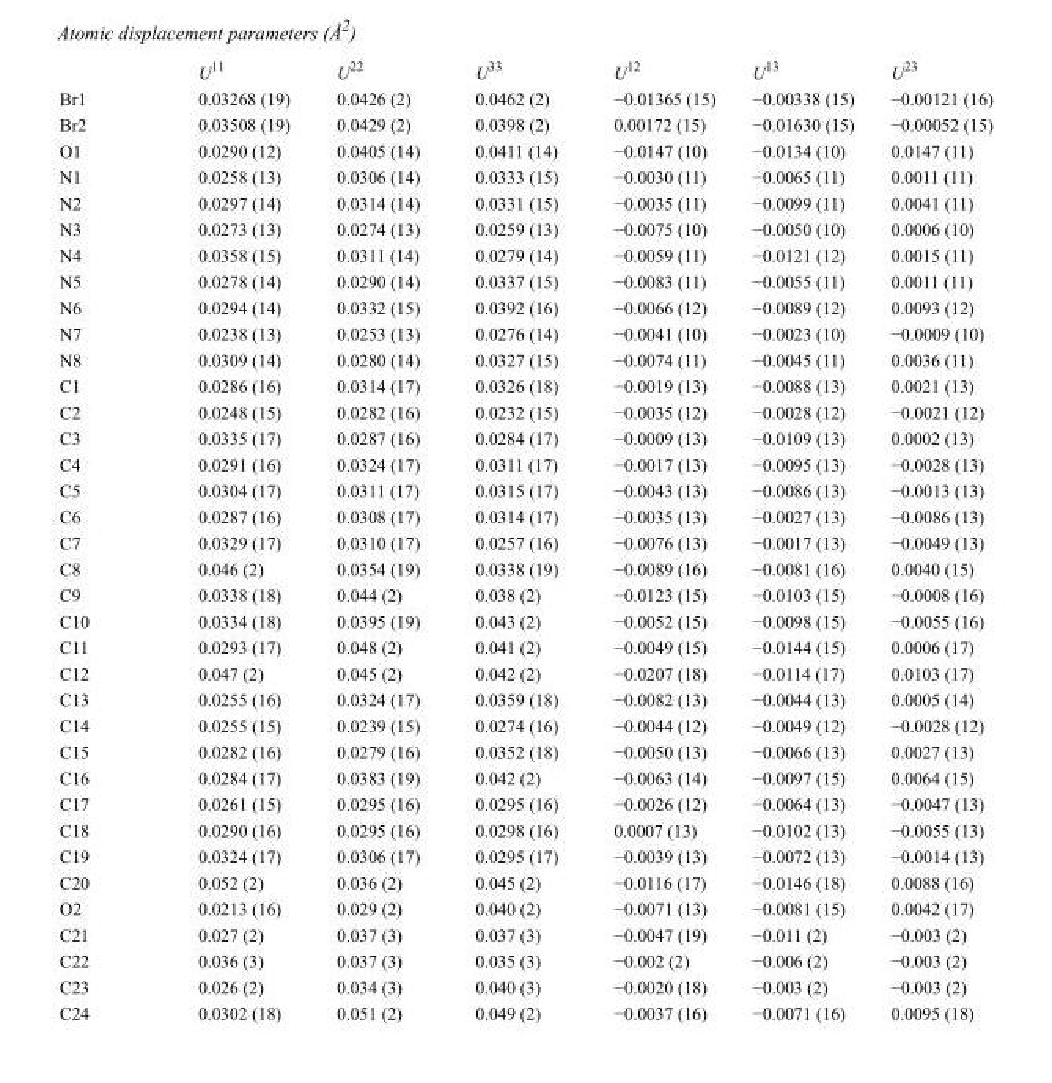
<table><thead><tr><td></td><td>U<sup>11</sup></td><td>U<sup>22</sup></td><td>U<sup>33</sup></td><td>U<sup>12</sup></td><td>U<sup>13</sup></td><td>U<sup>23</sup></td></tr></thead><tbody><tr><td>Br1</td><td>0.03268 (19)</td><td>0.0426 (2)</td><td>0.0462 (2)</td><td>−0.01365 (15)</td><td>−0.00338 (15)</td><td>−0.00121 (16)</td></tr><tr><td>Br2</td><td>0.03508 (19)</td><td>0.0429 (2)</td><td>0.0398 (2)</td><td>0.00172 (15)</td><td>−0.01630 (15)</td><td>−0.00052 (15)</td></tr><tr><td>O1</td><td>0.0290 (12)</td><td>0.0405 (14)</td><td>0.0411 (14)</td><td>−0.0147 (10)</td><td>−0.0134 (10)</td><td>0.0147 (11)</td></tr><tr><td>N1</td><td>0.0258 (13)</td><td>0.0306 (14)</td><td>0.0333 (15)</td><td>−0.0030 (11)</td><td>−0.0065 (11)</td><td>0.0011 (11)</td></tr><tr><td>N2</td><td>0.0297 (14)</td><td>0.0314 (14)</td><td>0.0331 (15)</td><td>−0.0035 (11)</td><td>−0.0099 (11)</td><td>0.0041 (11)</td></tr><tr><td>N3</td><td>0.0273 (13)</td><td>0.0274 (13)</td><td>0.0259 (13)</td><td>−0.0075 (10)</td><td>−0.0050 (10)</td><td>0.0006 (10)</td></tr><tr><td>N4</td><td>0.0358 (15)</td><td>0.0311 (14)</td><td>0.0279 (14)</td><td>−0.0059 (11)</td><td>−0.0121 (12)</td><td>0.0015 (11)</td></tr><tr><td>N5</td><td>0.0278 (14)</td><td>0.0290 (14)</td><td>0.0337 (15)</td><td>−0.0083 (11)</td><td>−0.0055 (11)</td><td>0.0011 (11)</td></tr><tr><td>N6</td><td>0.0294 (14)</td><td>0.0332 (15)</td><td>0.0392 (16)</td><td>−0.0066 (12)</td><td>−0.0089 (12)</td><td>0.0093 (12)</td></tr><tr><td>N7</td><td>0.0238 (13)</td><td>0.0253 (13)</td><td>0.0276 (14)</td><td>−0.0041 (10)</td><td>−0.0023 (10)</td><td>−0.0009 (10)</td></tr><tr><td>N8</td><td>0.0309 (14)</td><td>0.0280 (14)</td><td>0.0327 (15)</td><td>−0.0074 (11)</td><td>−0.0045 (11)</td><td>0.0036 (11)</td></tr><tr><td>C1</td><td>0.0286 (16)</td><td>0.0314 (17)</td><td>0.0326 (18)</td><td>−0.0019 (13)</td><td>−0.0088 (13)</td><td>0.0021 (13)</td></tr><tr><td>C2</td><td>0.0248 (15)</td><td>0.0282 (16)</td><td>0.0232 (15)</td><td>−0.0035 (12)</td><td>−0.0028 (12)</td><td>−0.0021 (12)</td></tr><tr><td>C3</td><td>0.0335 (17)</td><td>0.0287 (16)</td><td>0.0284 (17)</td><td>−0.0009 (13)</td><td>−0.0109 (13)</td><td>0.0002 (13)</td></tr><tr><td>C4</td><td>0.0291 (16)</td><td>0.0324 (17)</td><td>0.0311 (17)</td><td>−0.0017 (13)</td><td>−0.0095 (13)</td><td>−0.0028 (13)</td></tr><tr><td>C5</td><td>0.0304 (17)</td><td>0.0311 (17)</td><td>0.0315 (17)</td><td>−0.0043 (13)</td><td>−0.0086 (13)</td><td>−0.0013 (13)</td></tr><tr><td>C6</td><td>0.0287 (16)</td><td>0.0308 (17)</td><td>0.0314 (17)</td><td>−0.0035 (13)</td><td>−0.0027 (13)</td><td>−0.0086 (13)</td></tr><tr><td>C7</td><td>0.0329 (17)</td><td>0.0310 (17)</td><td>0.0257 (16)</td><td>−0.0076 (13)</td><td>−0.0017 (13)</td><td>−0.0049 (13)</td></tr><tr><td>C8</td><td>0.046 (2)</td><td>0.0354 (19)</td><td>0.0338 (19)</td><td>−0.0089 (16)</td><td>−0.0081 (16)</td><td>0.0040 (15)</td></tr><tr><td>C9</td><td>0.0338 (18)</td><td>0.044 (2)</td><td>0.038 (2)</td><td>−0.0123 (15)</td><td>−0.0103 (15)</td><td>−0.0008 (16)</td></tr><tr><td>C10</td><td>0.0334 (18)</td><td>0.0395 (19)</td><td>0.043 (2)</td><td>−0.0052 (15)</td><td>−0.0098 (15)</td><td>−0.0055 (16)</td></tr><tr><td>C11</td><td>0.0293 (17)</td><td>0.048 (2)</td><td>0.041 (2)</td><td>−0.0049 (15)</td><td>−0.0144 (15)</td><td>0.0006 (17)</td></tr><tr><td>C12</td><td>0.047 (2)</td><td>0.045 (2)</td><td>0.042 (2)</td><td>−0.0207 (18)</td><td>−0.0114 (17)</td><td>0.0103 (17)</td></tr><tr><td>C13</td><td>0.0255 (16)</td><td>0.0324 (17)</td><td>0.0359 (18)</td><td>−0.0082 (13)</td><td>−0.0044 (13)</td><td>0.0005 (14)</td></tr><tr><td>C14</td><td>0.0255 (15)</td><td>0.0239 (15)</td><td>0.0274 (16)</td><td>−0.0044 (12)</td><td>−0.0049 (12)</td><td>−0.0028 (12)</td></tr><tr><td>C15</td><td>0.0282 (16)</td><td>0.0279 (16)</td><td>0.0352 (18)</td><td>−0.0050 (13)</td><td>−0.0066 (13)</td><td>0.0027 (13)</td></tr><tr><td>C16</td><td>0.0284 (17)</td><td>0.0383 (19)</td><td>0.042 (2)</td><td>−0.0063 (14)</td><td>−0.0097 (15)</td><td>0.0064 (15)</td></tr><tr><td>C17</td><td>0.0261 (15)</td><td>0.0295 (16)</td><td>0.0295 (16)</td><td>−0.0026 (12)</td><td>−0.0064 (13)</td><td>−0.0047 (13)</td></tr><tr><td>C18</td><td>0.0290 (16)</td><td>0.0295 (16)</td><td>0.0298 (16)</td><td>0.0007 (13)</td><td>−0.0102 (13)</td><td>−0.0055 (13)</td></tr><tr><td>C19</td><td>0.0324 (17)</td><td>0.0306 (17)</td><td>0.0295 (17)</td><td>−0.0039 (13)</td><td>−0.0072 (13)</td><td>−0.0014 (13)</td></tr><tr><td>C20</td><td>0.052 (2)</td><td>0.036 (2)</td><td>0.045 (2)</td><td>−0.0116 (17)</td><td>−0.0146 (18)</td><td>0.0088 (16)</td></tr><tr><td>O2</td><td>0.0213 (16)</td><td>0.029 (2)</td><td>0.040 (2)</td><td>−0.0071 (13)</td><td>−0.0081 (15)</td><td>0.0042 (17)</td></tr><tr><td>C21</td><td>0.027 (2)</td><td>0.037 (3)</td><td>0.037 (3)</td><td>−0.0047 (19)</td><td>−0.011 (2)</td><td>−0.003 (2)</td></tr><tr><td>C22</td><td>0.036 (3)</td><td>0.037 (3)</td><td>0.035 (3)</td><td>−0.002 (2)</td><td>−0.006 (2)</td><td>−0.003 (2)</td></tr><tr><td>C23</td><td>0.026 (2)</td><td>0.034 (3)</td><td>0.040 (3)</td><td>−0.0020 (18)</td><td>−0.003 (2)</td><td>−0.003 (2)</td></tr><tr><td>C24</td><td>0.0302 (18)</td><td>0.051 (2)</td><td>0.049 (2)</td><td>−0.0037 (16)</td><td>−0.0071 (16)</td><td>0.0095 (18)</td></tr></tbody></table>